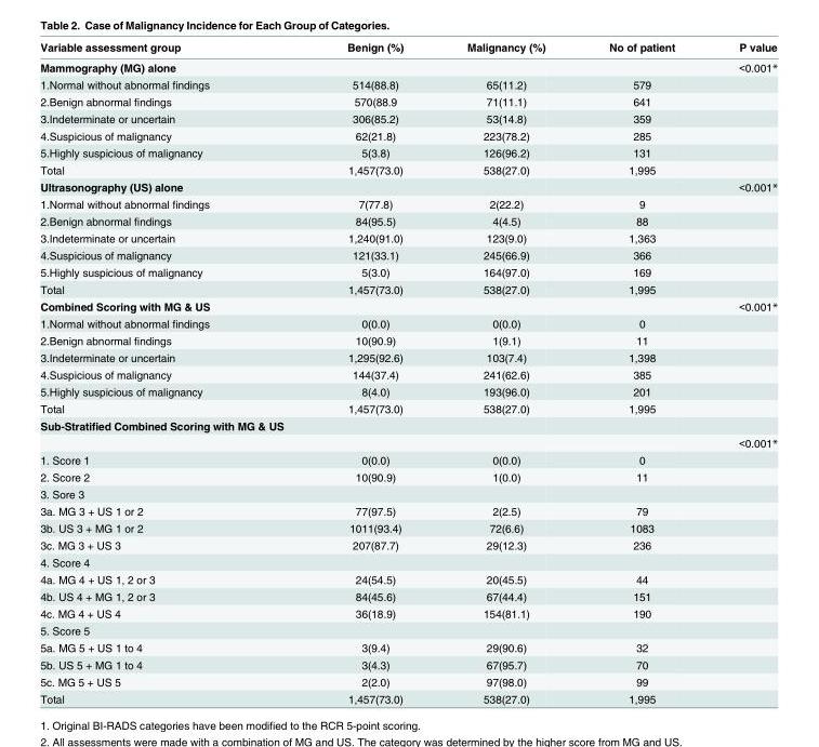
<table><thead><tr><td>Variable assessment group</td><td>Benign (%)</td><td>Malignancy (%)</td><td>No of patient</td><td>P value</td></tr></thead><tbody><tr><td>Mammography (MG) alone</td><td></td><td></td><td></td><td>&lt;0.001*</td></tr><tr><td>1.Normal without abnormal findings</td><td>514(88.8)</td><td>65(11.2)</td><td>579</td><td></td></tr><tr><td>2.Benign abnormal findings</td><td>570(88.9</td><td>71(11.1)</td><td>641</td><td></td></tr><tr><td>3.Indeterminate or uncertain</td><td>306(85.2)</td><td>53(14.8)</td><td>359</td><td></td></tr><tr><td>4.Suspicious of malignancy</td><td>62(21.8)</td><td>223(78.2)</td><td>285</td><td></td></tr><tr><td>5.Highly suspicious of malignancy</td><td>5(3.8)</td><td>126(96.2)</td><td>131</td><td></td></tr><tr><td>Total</td><td>1,457(73.0)</td><td>538(27.0)</td><td>1,995</td><td></td></tr><tr><td>Ultrasonography (US) alone</td><td></td><td></td><td></td><td>&lt;0.001*</td></tr><tr><td>1.Normal without abnormal findings</td><td>7(77.8)</td><td>2(22.2)</td><td>9</td><td></td></tr><tr><td>2.Benign abnormal findings</td><td>84(95.5)</td><td>4(4.5)</td><td>88</td><td></td></tr><tr><td>3.Indeterminate or uncertain</td><td>1,240(91.0)</td><td>123(9.0)</td><td>1,363</td><td></td></tr><tr><td>4.Suspicious of malignancy</td><td>121(33.1)</td><td>245(66.9)</td><td>366</td><td></td></tr><tr><td>5.Highly suspicious of malignancy</td><td>5(3.0)</td><td>164(97.0)</td><td>169</td><td></td></tr><tr><td>Total</td><td>1,457(73.0)</td><td>538(27.0)</td><td>1,995</td><td></td></tr><tr><td>Combined Scoring with MG &amp; US</td><td></td><td></td><td></td><td>&lt;0.001*</td></tr><tr><td>1.Normal without abnormal findings</td><td>0(0.0)</td><td>0(0.0)</td><td>0</td><td></td></tr><tr><td>2.Benign abnormal findings</td><td>10(90.9)</td><td>1(9.1)</td><td>11</td><td></td></tr><tr><td>3.Indeterminate or uncertain</td><td>1,295(92.6)</td><td>103(7.4)</td><td>1,398</td><td></td></tr><tr><td>4.Suspicious of malignancy</td><td>144(37.4)</td><td>241(62.6)</td><td>385</td><td></td></tr><tr><td>5.Highly suspicious of malignancy</td><td>8(4.0)</td><td>193(96.0)</td><td>201</td><td></td></tr><tr><td>Total</td><td>1,457(73.0)</td><td>538(27.0)</td><td>1,995</td><td></td></tr><tr><td colspan="5">Sub-Stratified Combined Scoring with MG &amp; US</td></tr><tr><td></td><td></td><td></td><td></td><td>&lt;0.001*</td></tr><tr><td>1. Score 1</td><td>0(0.0)</td><td>0(0.0)</td><td>0</td><td></td></tr><tr><td>2. Score 2</td><td>10(90.9)</td><td>1(0.0)</td><td>11</td><td></td></tr><tr><td colspan="5">3. Sore 3</td></tr><tr><td>3a. MG 3 + US 1 or 2</td><td>77(97.5)</td><td>2(2.5)</td><td>79</td><td></td></tr><tr><td>3b. US 3 + MG 1 or 2</td><td>1011(93.4)</td><td>72(6.6)</td><td>1083</td><td></td></tr><tr><td>3c. MG 3 + US 3</td><td>207(87.7)</td><td>29(12.3)</td><td>236</td><td></td></tr><tr><td colspan="5">4. Score 4</td></tr><tr><td>4a. MG 4 + US 1, 2 or 3</td><td>24(54.5)</td><td>20(45.5)</td><td>44</td><td></td></tr><tr><td>4b. US 4 + MG 1, 2 or 3</td><td>84(45.6)</td><td>67(44.4)</td><td>151</td><td></td></tr><tr><td>4c. MG 4 + US 4</td><td>36(18.9)</td><td>154(81.1)</td><td>190</td><td></td></tr><tr><td colspan="5">5. Score 5</td></tr><tr><td>5a. MG 5 + US 1 to 4</td><td>3(9.4)</td><td>29(90.6)</td><td>32</td><td></td></tr><tr><td>5b. US 5 + MG 1 to 4</td><td>3(4.3)</td><td>67(95.7)</td><td>70</td><td></td></tr><tr><td>5c. MG 5 + US 5</td><td>2(2.0)</td><td>97(98.0)</td><td>99</td><td></td></tr><tr><td>Total</td><td>1,457(73.0)</td><td>538(27.0)</td><td>1,995</td><td></td></tr></tbody></table>